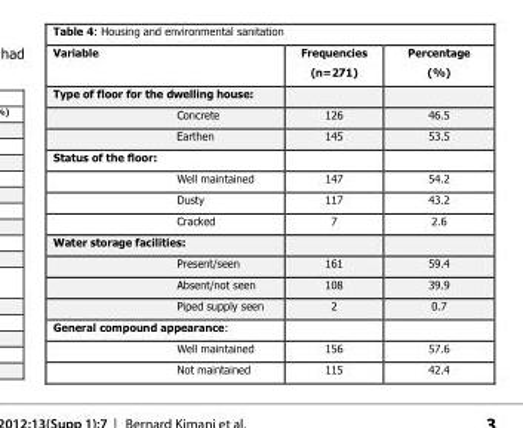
<table><thead><tr><td>Variable</td><td>Frequencies (n=271)</td><td>Percentage (%)</td></tr></thead><tbody><tr><td colspan="3">Type of floor for the dwelling house:</td></tr><tr><td>Concrete</td><td>126</td><td>46.5</td></tr><tr><td>Earthen</td><td>145</td><td>53.5</td></tr><tr><td colspan="3">Status of the floor:</td></tr><tr><td>Well maintained</td><td>147</td><td>54.2</td></tr><tr><td>Dusty</td><td>117</td><td>43.2</td></tr><tr><td>Cracked</td><td>7</td><td>2.6</td></tr><tr><td colspan="3">Water storage facilities:</td></tr><tr><td>Present/seen</td><td>161</td><td>59.4</td></tr><tr><td>Absent/not seen</td><td>108</td><td>39.9</td></tr><tr><td>Piped supply seen</td><td>2</td><td>0.7</td></tr><tr><td colspan="3">General compound appearance:</td></tr><tr><td>Well maintained</td><td>156</td><td>57.6</td></tr><tr><td>Not maintained</td><td>115</td><td>42.4</td></tr></tbody></table>